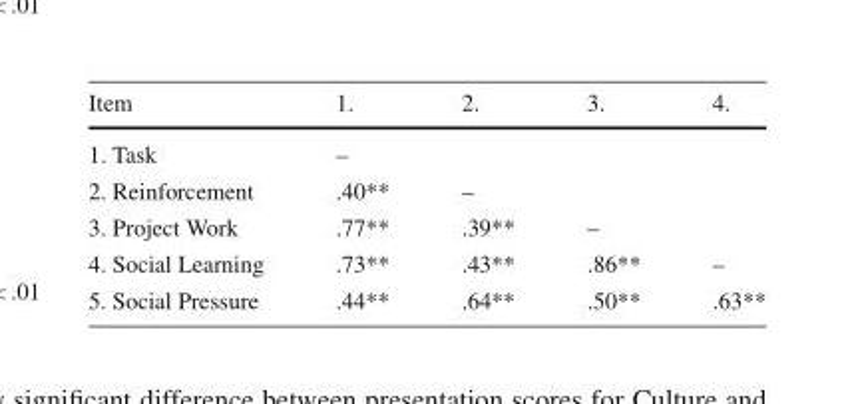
<table><thead><tr><td>Item</td><td>1.</td><td>2.</td><td>3.</td><td>4.</td></tr></thead><tbody><tr><td>1. Task</td><td>–</td><td></td><td></td><td></td></tr><tr><td>2. Reinforcement</td><td>.40**</td><td>–</td><td></td><td></td></tr><tr><td>3. Project Work</td><td>.77**</td><td>.39**</td><td>–</td><td></td></tr><tr><td>4. Social Learning</td><td>.73**</td><td>.43**</td><td>.86**</td><td>–</td></tr><tr><td>5. Social Pressure</td><td>.44**</td><td>.64**</td><td>.50**</td><td>.63**</td></tr></tbody></table>